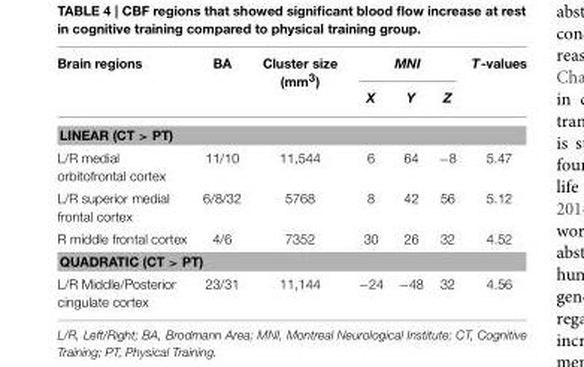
<table><thead><tr><td rowspan="2">Brain regions</td><td rowspan="2">BA</td><td rowspan="2">Cluster size (mm<sup>3</sup>)</td><td colspan="3">MNI</td><td rowspan="2">T-values</td></tr><tr><td>X</td><td>Y</td><td>Z</td></tr></thead><tbody><tr><td colspan="7">LINEAR (CT &gt; PT)</td></tr><tr><td>L/R medial orbitofrontal cortex</td><td>11/10</td><td>11,544</td><td>6</td><td>64</td><td>−8</td><td>5.47</td></tr><tr><td>L/R superior medial frontal cortex</td><td>6/8/32</td><td>5768</td><td>8</td><td>42</td><td>56</td><td>5.12</td></tr><tr><td>R middle frontal cortex</td><td>4/6</td><td>7352</td><td>30</td><td>26</td><td>32</td><td>4.52</td></tr><tr><td colspan="7">QUADRATIC (CT &gt; PT)</td></tr><tr><td>L/R Middle/Posterior cingulate cortex</td><td>23/31</td><td>11,144</td><td>−24</td><td>−48</td><td>32</td><td>4.56</td></tr></tbody></table>